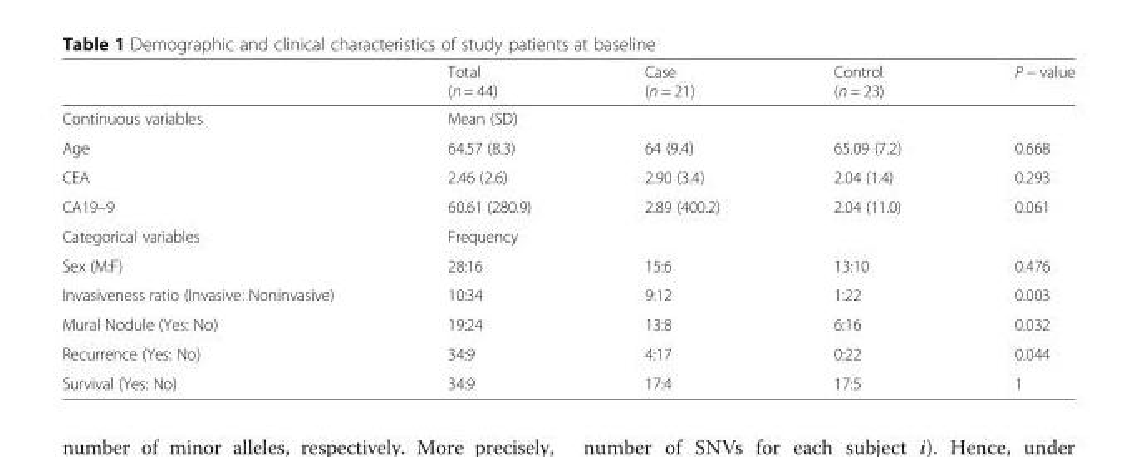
<table><thead><tr><td></td><td>Total (n = 44)</td><td>Case (n = 21)</td><td>Control (n = 23)</td><td>P − value</td></tr></thead><tbody><tr><td>Continuous variables</td><td colspan="3">Mean (SD)</td><td></td></tr><tr><td>Age</td><td>64.57 (8.3)</td><td>64 (9.4)</td><td>65.09 (7.2)</td><td>0.668</td></tr><tr><td>CEA</td><td>2.46 (2.6)</td><td>2.90 (3.4)</td><td>2.04 (1.4)</td><td>0.293</td></tr><tr><td>CA19–9</td><td>60.61 (280.9)</td><td>2.89 (400.2)</td><td>2.04 (11.0)</td><td>0.061</td></tr><tr><td>Categorical variables</td><td colspan="3">Frequency</td><td></td></tr><tr><td>Sex (M:F)</td><td>28:16</td><td>15:6</td><td>13:10</td><td>0.476</td></tr><tr><td>Invasiveness ratio (Invasive: Noninvasive)</td><td>10:34</td><td>9:12</td><td>1:22</td><td>0.003</td></tr><tr><td>Mural Nodule (Yes: No)</td><td>19:24</td><td>13:8</td><td>6:16</td><td>0.032</td></tr><tr><td>Recurrence (Yes: No)</td><td>34:9</td><td>4:17</td><td>0:22</td><td>0.044</td></tr><tr><td>Survival (Yes: No)</td><td>34:9</td><td>17:4</td><td>17:5</td><td>1</td></tr></tbody></table>